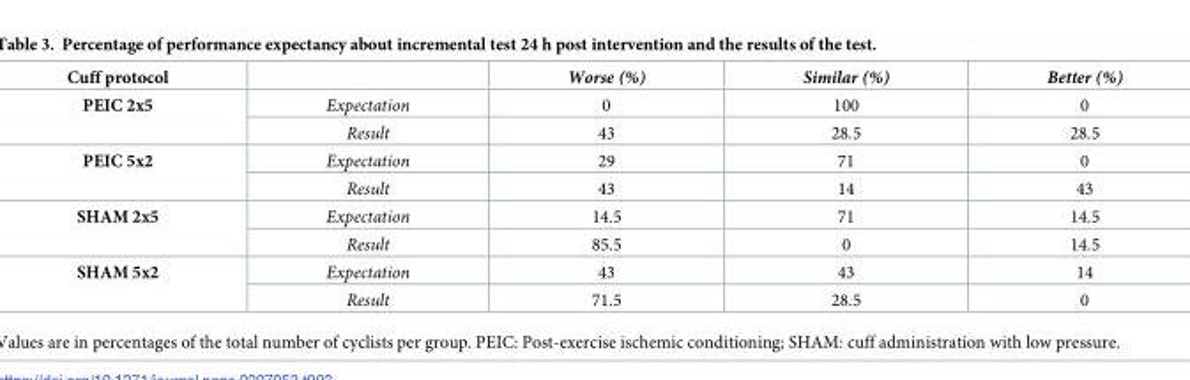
<table><thead><tr><td>Cuff protocol</td><td></td><td>Worse (%)</td><td>Similar (%)</td><td>Better (%)</td></tr></thead><tbody><tr><td rowspan="2">PEIC 2x5</td><td>Expectation</td><td>0</td><td>100</td><td>0</td></tr><tr><td>Result</td><td>43</td><td>28.5</td><td>28.5</td></tr><tr><td rowspan="2">PEIC 5x2</td><td>Expectation</td><td>29</td><td>71</td><td>0</td></tr><tr><td>Result</td><td>43</td><td>14</td><td>43</td></tr><tr><td rowspan="2">SHAM 2x5</td><td>Expectation</td><td>14.5</td><td>71</td><td>14.5</td></tr><tr><td>Result</td><td>85.5</td><td>0</td><td>14.5</td></tr><tr><td rowspan="2">SHAM 5x2</td><td>Expectation</td><td>43</td><td>43</td><td>14</td></tr><tr><td>Result</td><td>71.5</td><td>28.5</td><td>0</td></tr></tbody></table>